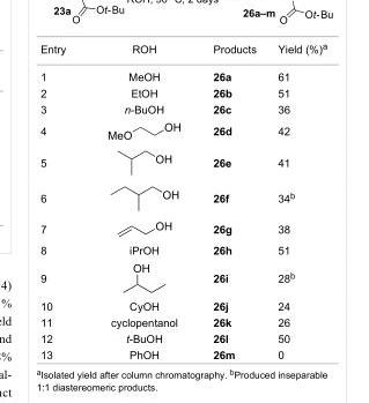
<table><tbody><tr><td>Entry</td><td>ROH</td><td>Products</td><td>Yield (%)<sup>a</sup></td></tr><tr><td>1</td><td>MeOH</td><td>26a</td><td>61</td></tr><tr><td>2</td><td>EtOH</td><td>26b</td><td>51</td></tr><tr><td>3</td><td>n-BuOH</td><td>26c</td><td>36</td></tr><tr><td>4</td><td></td><td>26d</td><td>42</td></tr><tr><td>5</td><td></td><td>26e</td><td>41</td></tr><tr><td>6</td><td></td><td>26f</td><td>34<sup>b</sup></td></tr><tr><td>7</td><td></td><td>26g</td><td>38</td></tr><tr><td>8</td><td>iPrOH</td><td>26h</td><td>51</td></tr><tr><td>9</td><td></td><td>26i</td><td>28<sup>b</sup></td></tr><tr><td>10</td><td>CyOH</td><td>26j</td><td>24</td></tr><tr><td>11</td><td>cyclopentanol</td><td>26k</td><td>26</td></tr><tr><td>12</td><td>t-BuOH</td><td>26l</td><td>50</td></tr><tr><td>13</td><td>PhOH</td><td>26m</td><td>0</td></tr></tbody></table>